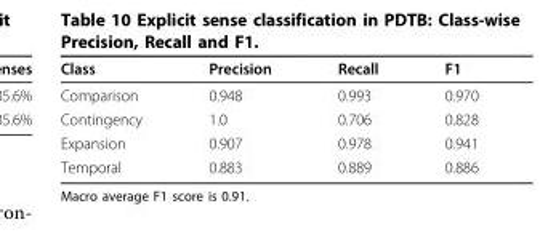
<table><thead><tr><td>Class</td><td>Precision</td><td>Recall</td><td>F1</td></tr></thead><tbody><tr><td>Comparison</td><td>0.948</td><td>0.993</td><td>0.970</td></tr><tr><td>Contingency</td><td>1.0</td><td>0.706</td><td>0.828</td></tr><tr><td>Expansion</td><td>0.907</td><td>0.978</td><td>0.941</td></tr><tr><td>Temporal</td><td>0.883</td><td>0.889</td><td>0.886</td></tr></tbody></table>